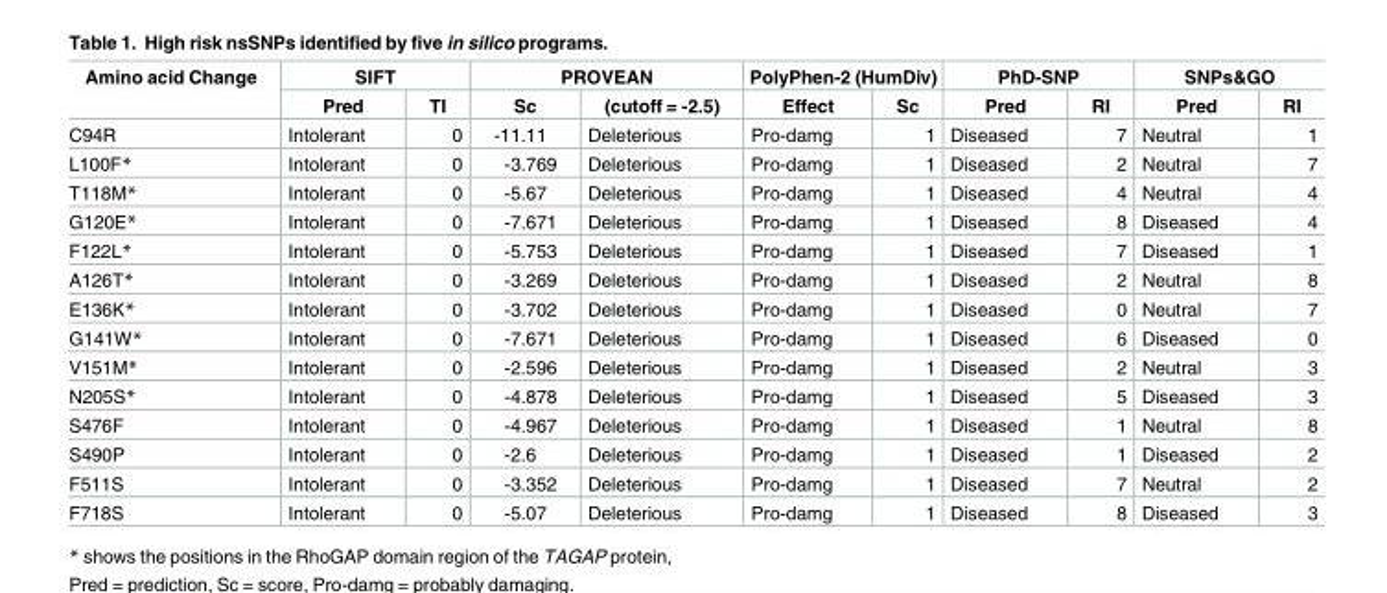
<table><thead><tr><td rowspan="2">Amino acid Change</td><td colspan="2">SIFT</td><td colspan="2">PROVEAN</td><td colspan="2">PolyPhen-2 (HumDiv)</td><td colspan="2">PhD-SNP</td><td colspan="2">SNPs&amp;GO</td></tr><tr><td>Pred</td><td>TI</td><td>Sc</td><td>(cutoff = -2.5)</td><td>Effect</td><td>Sc</td><td>Pred</td><td>RI</td><td>Pred</td><td>RI</td></tr></thead><tbody><tr><td>C94R</td><td>Intolerant</td><td>0</td><td>-11.11</td><td>Deleterious</td><td>Pro-damg</td><td>1</td><td>Diseased</td><td>7</td><td>Neutral</td><td>1</td></tr><tr><td>L100F*</td><td>Intolerant</td><td>0</td><td>-3.769</td><td>Deleterious</td><td>Pro-damg</td><td>1</td><td>Diseased</td><td>2</td><td>Neutral</td><td>7</td></tr><tr><td>T118M*</td><td>Intolerant</td><td>0</td><td>-5.67</td><td>Deleterious</td><td>Pro-damg</td><td>1</td><td>Diseased</td><td>4</td><td>Neutral</td><td>4</td></tr><tr><td>G120E*</td><td>Intolerant</td><td>0</td><td>-7.671</td><td>Deleterious</td><td>Pro-damg</td><td>1</td><td>Diseased</td><td>8</td><td>Diseased</td><td>4</td></tr><tr><td>F122L*</td><td>Intolerant</td><td>0</td><td>-5.753</td><td>Deleterious</td><td>Pro-damg</td><td>1</td><td>Diseased</td><td>7</td><td>Diseased</td><td>1</td></tr><tr><td>A126T*</td><td>Intolerant</td><td>0</td><td>-3.269</td><td>Deleterious</td><td>Pro-damg</td><td>1</td><td>Diseased</td><td>2</td><td>Neutral</td><td>8</td></tr><tr><td>E136K*</td><td>Intolerant</td><td>0</td><td>-3.702</td><td>Deleterious</td><td>Pro-damg</td><td>1</td><td>Diseased</td><td>0</td><td>Neutral</td><td>7</td></tr><tr><td>G141W*</td><td>Intolerant</td><td>0</td><td>-7.671</td><td>Deleterious</td><td>Pro-damg</td><td>1</td><td>Diseased</td><td>6</td><td>Diseased</td><td>0</td></tr><tr><td>V151M*</td><td>Intolerant</td><td>0</td><td>-2.596</td><td>Deleterious</td><td>Pro-damg</td><td>1</td><td>Diseased</td><td>2</td><td>Neutral</td><td>3</td></tr><tr><td>N205S*</td><td>Intolerant</td><td>0</td><td>-4.878</td><td>Deleterious</td><td>Pro-damg</td><td>1</td><td>Diseased</td><td>5</td><td>Diseased</td><td>3</td></tr><tr><td>S476F</td><td>Intolerant</td><td>0</td><td>-4.967</td><td>Deleterious</td><td>Pro-damg</td><td>1</td><td>Diseased</td><td>1</td><td>Neutral</td><td>8</td></tr><tr><td>S490P</td><td>Intolerant</td><td>0</td><td>-2.6</td><td>Deleterious</td><td>Pro-damg</td><td>1</td><td>Diseased</td><td>1</td><td>Diseased</td><td>2</td></tr><tr><td>F511S</td><td>Intolerant</td><td>0</td><td>-3.352</td><td>Deleterious</td><td>Pro-damg</td><td>1</td><td>Diseased</td><td>7</td><td>Neutral</td><td>2</td></tr><tr><td>F718S</td><td>Intolerant</td><td>0</td><td>-5.07</td><td>Deleterious</td><td>Pro-damg</td><td>1</td><td>Diseased</td><td>8</td><td>Diseased</td><td>3</td></tr></tbody></table>